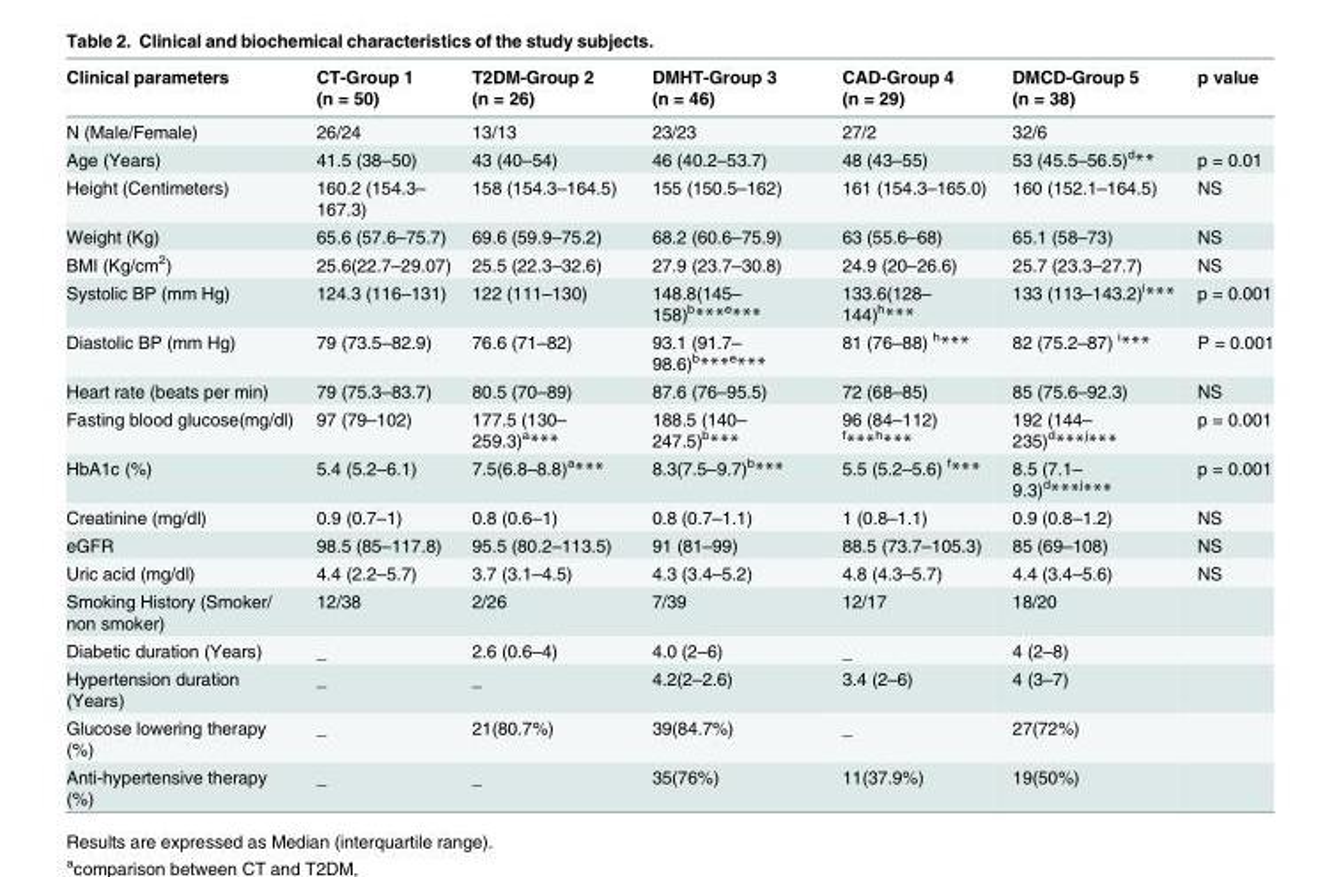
<table><thead><tr><td>Clinical parameters</td><td>CT-Group 1 (n = 50)</td><td>T2DM-Group 2 (n = 26)</td><td>DMHT-Group 3 (n = 46)</td><td>CAD-Group 4 (n = 29)</td><td>DMCD-Group 5 (n = 38)</td><td>p value</td></tr></thead><tbody><tr><td>N (Male/Female)</td><td>26/24</td><td>13/13</td><td>23/23</td><td>27/2</td><td>32/6</td><td></td></tr><tr><td>Age (Years)</td><td>41.5 (38–50)</td><td>43 (40–54)</td><td>46 (40.2–53.7)</td><td>48 (43–55)</td><td>53 (45.5–56.5)<sup>d</sup>**</td><td>p = 0.01</td></tr><tr><td>Height (Centimeters)</td><td>160.2 (154.3– 167.3)</td><td>158 (154.3–164.5)</td><td>155 (150.5–162)</td><td>161 (154.3–165.0)</td><td>160 (152.1–164.5)</td><td>NS</td></tr><tr><td>Weight (Kg)</td><td>65.6 (57.6–75.7)</td><td>69.6 (59.9–75.2)</td><td>68.2 (60.6–75.9)</td><td>63 (55.6–68)</td><td>65.1 (58–73)</td><td>NS</td></tr><tr><td>BMI (Kg/cm<sup>2</sup>)</td><td>25.6(22.7–29.07)</td><td>25.5 (22.3–32.6)</td><td>27.9 (23.7–30.8)</td><td>24.9 (20–26.6)</td><td>25.7 (23.3–27.7)</td><td>NS</td></tr><tr><td>Systolic BP (mm Hg)</td><td>124.3 (116–131)</td><td>122 (111–130)</td><td>148.8(145– 158)<sup>b</sup>***<sup>e</sup>***</td><td>133.6(128– 144)<sup>h</sup>***</td><td>133 (113–143.2)<sup>i</sup>***</td><td>p = 0.001</td></tr><tr><td>Diastolic BP (mm Hg)</td><td>79 (73.5–82.9)</td><td>76.6 (71–82)</td><td>93.1 (91.7– 98.6)<sup>b</sup>***<sup>e</sup>***</td><td>81 (76–88) <sup>h</sup>***</td><td>82 (75.2–87) <sup>i</sup>***</td><td>P = 0.001</td></tr><tr><td>Heart rate (beats per min)</td><td>79 (75.3–83.7)</td><td>80.5 (70–89)</td><td>87.6 (76–95.5)</td><td>72 (68–85)</td><td>85 (75.6–92.3)</td><td>NS</td></tr><tr><td>Fasting blood glucose(mg/dl)</td><td>97 (79–102)</td><td>177.5 (130– 259.3)<sup>a</sup>***</td><td>188.5 (140– 247.5)<sup>b</sup>***</td><td>96 (84–112) <sup>f</sup>***<sup>h</sup>***</td><td>192 (144– 235)<sup>d</sup>***<sup>j</sup>***</td><td>p = 0.001</td></tr><tr><td>HbA1c (%)</td><td>5.4 (5.2–6.1)</td><td>7.5(6.8–8.8)<sup>a</sup>***</td><td>8.3(7.5–9.7)<sup>b</sup>***</td><td>5.5 (5.2–5.6) <sup>f</sup>***</td><td>8.5 (7.1– 9.3)<sup>d</sup>***<sup>j</sup>***</td><td>p = 0.001</td></tr><tr><td>Creatinine (mg/dl)</td><td>0.9 (0.7–1)</td><td>0.8 (0.6–1)</td><td>0.8 (0.7–1.1)</td><td>1 (0.8–1.1)</td><td>0.9 (0.8–1.2)</td><td>NS</td></tr><tr><td>eGFR</td><td>98.5 (85–117.8)</td><td>95.5 (80.2–113.5)</td><td>91 (81–99)</td><td>88.5 (73.7–105.3)</td><td>85 (69–108)</td><td>NS</td></tr><tr><td>Uric acid (mg/dl)</td><td>4.4 (2.2–5.7)</td><td>3.7 (3.1–4.5)</td><td>4.3 (3.4–5.2)</td><td>4.8 (4.3–5.7)</td><td>4.4 (3.4–5.6)</td><td>NS</td></tr><tr><td>Smoking History (Smoker/ non smoker)</td><td>12/38</td><td>2/26</td><td>7/39</td><td>12/17</td><td>18/20</td><td></td></tr><tr><td>Diabetic duration (Years)</td><td>_</td><td>2.6 (0.6–4)</td><td>4.0 (2–6)</td><td>_</td><td>4 (2–8)</td><td></td></tr><tr><td>Hypertension duration (Years)</td><td>_</td><td>_</td><td>4.2(2–2.6)</td><td>3.4 (2–6)</td><td>4 (3–7)</td><td></td></tr><tr><td>Glucose lowering therapy (%)</td><td>_</td><td>21(80.7%)</td><td>39(84.7%)</td><td>_</td><td>27(72%)</td><td></td></tr><tr><td>Anti-hypertensive therapy (%)</td><td>_</td><td>_</td><td>35(76%)</td><td>11(37.9%)</td><td>19(50%)</td><td></td></tr></tbody></table>